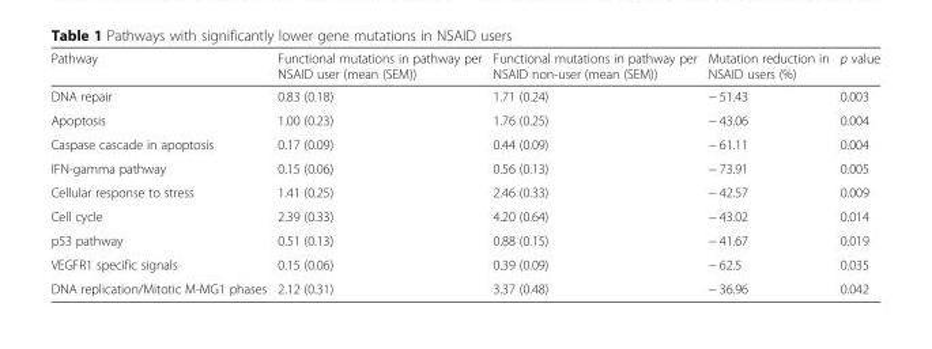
<table><thead><tr><td>Pathway</td><td>Functional mutations in pathway per NSAID user (mean (SEM))</td><td>Functional mutations in pathway per NSAID non-user (mean (SEM))</td><td>Mutation reduction in NSAID users (%)</td><td>p value</td></tr></thead><tbody><tr><td>DNA repair</td><td>0.83 (0.18)</td><td>1.71 (0.24)</td><td>− 51.43</td><td>0.003</td></tr><tr><td>Apoptosis</td><td>1.00 (0.23)</td><td>1.76 (0.25)</td><td>− 43.06</td><td>0.004</td></tr><tr><td>Caspase cascade in apoptosis</td><td>0.17 (0.09)</td><td>0.44 (0.09)</td><td>− 61.11</td><td>0.004</td></tr><tr><td>IFN-gamma pathway</td><td>0.15 (0.06)</td><td>0.56 (0.13)</td><td>− 73.91</td><td>0.005</td></tr><tr><td>Cellular response to stress</td><td>1.41 (0.25)</td><td>2.46 (0.33)</td><td>− 42.57</td><td>0.009</td></tr><tr><td>Cell cycle</td><td>2.39 (0.33)</td><td>4.20 (0.64)</td><td>− 43.02</td><td>0.014</td></tr><tr><td>p53 pathway</td><td>0.51 (0.13)</td><td>0.88 (0.15)</td><td>− 41.67</td><td>0.019</td></tr><tr><td>VEGFR1 specific signals</td><td>0.15 (0.06)</td><td>0.39 (0.09)</td><td>− 62.5</td><td>0.035</td></tr><tr><td>DNA replication/Mitotic M-MG1 phases</td><td>2.12 (0.31)</td><td>3.37 (0.48)</td><td>− 36.96</td><td>0.042</td></tr></tbody></table>